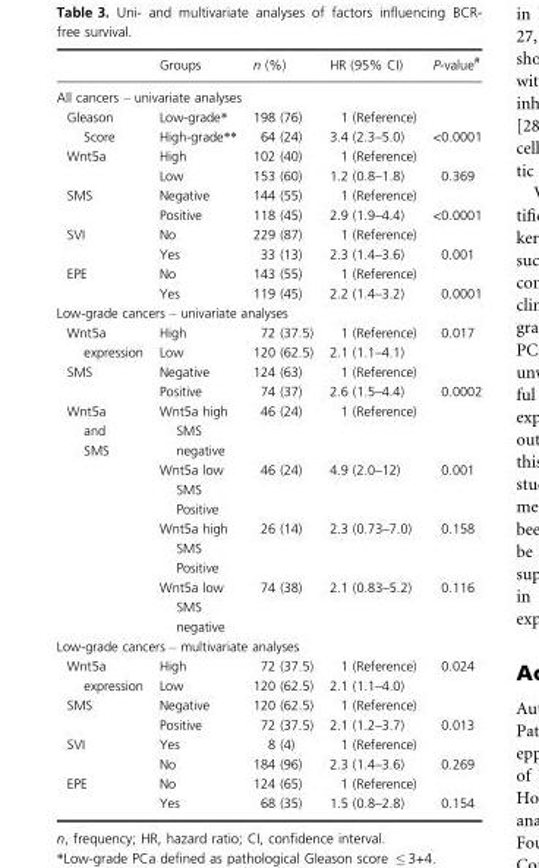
<table><thead><tr><td></td><td>Groups</td><td>n (%)</td><td>HR (95% CI)</td><td>P-value#</td></tr></thead><tbody><tr><td colspan="5">All cancers – univariate analyses</td></tr><tr><td rowspan="2">Gleason Score</td><td>Low-grade*</td><td>198 (76)</td><td>1 (Reference)</td><td></td></tr><tr><td>High-grade**</td><td>64 (24)</td><td>3.4 (2.3–5.0)</td><td>&lt;0.0001</td></tr><tr><td rowspan="2">Wnt5a</td><td>High</td><td>102 (40)</td><td>1 (Reference)</td><td></td></tr><tr><td>Low</td><td>153 (60)</td><td>1.2 (0.8–1.8)</td><td>0.369</td></tr><tr><td rowspan="2">SMS</td><td>Negative</td><td>144 (55)</td><td>1 (Reference)</td><td></td></tr><tr><td>Positive</td><td>118 (45)</td><td>2.9 (1.9–4.4)</td><td>&lt;0.0001</td></tr><tr><td rowspan="2">SVI</td><td>No</td><td>229 (87)</td><td>1 (Reference)</td><td></td></tr><tr><td>Yes</td><td>33 (13)</td><td>2.3 (1.4–3.6)</td><td>0.001</td></tr><tr><td rowspan="2">EPE</td><td>No</td><td>143 (55)</td><td>1 (Reference)</td><td></td></tr><tr><td>Yes</td><td>119 (45)</td><td>2.2 (1.4–3.2)</td><td>0.0001</td></tr><tr><td colspan="5">Low-grade cancers – univariate analyses</td></tr><tr><td rowspan="2">Wnt5a expression</td><td>High</td><td>72 (37.5)</td><td>1 (Reference)</td><td>0.017</td></tr><tr><td>Low</td><td>120 (62.5)</td><td>2.1 (1.1–4.1)</td><td></td></tr><tr><td rowspan="2">SMS</td><td>Negative</td><td>124 (63)</td><td>1 (Reference)</td><td></td></tr><tr><td>Positive</td><td>74 (37)</td><td>2.6 (1.5–4.4)</td><td>0.0002</td></tr><tr><td rowspan="4">Wnt5a and SMS</td><td>Wnt5a high SMS negative</td><td>46 (24)</td><td>1 (Reference)</td><td></td></tr><tr><td>Wnt5a low SMS Positive</td><td>46 (24)</td><td>4.9 (2.0–12)</td><td>0.001</td></tr><tr><td>Wnt5a high SMS Positive</td><td>26 (14)</td><td>2.3 (0.73–7.0)</td><td>0.158</td></tr><tr><td>Wnt5a low SMS negative</td><td>74 (38)</td><td>2.1 (0.83–5.2)</td><td>0.116</td></tr><tr><td colspan="5">Low-grade cancers – multivariate analyses</td></tr><tr><td rowspan="2">Wnt5a expression</td><td>High</td><td>72 (37.5)</td><td>1 (Reference)</td><td>0.024</td></tr><tr><td>Low</td><td>120 (62.5)</td><td>2.1 (1.1–4.0)</td><td></td></tr><tr><td rowspan="2">SMS</td><td>Negative</td><td>120 (62.5)</td><td>1 (Reference)</td><td></td></tr><tr><td>Positive</td><td>72 (37.5)</td><td>2.1 (1.2–3.7)</td><td>0.013</td></tr><tr><td rowspan="2">SVI</td><td>Yes</td><td>8 (4)</td><td>1 (Reference)</td><td></td></tr><tr><td>No</td><td>184 (96)</td><td>2.3 (1.4–3.6)</td><td>0.269</td></tr><tr><td rowspan="2">EPE</td><td>No</td><td>124 (65)</td><td>1 (Reference)</td><td></td></tr><tr><td>Yes</td><td>68 (35)</td><td>1.5 (0.8–2.8)</td><td>0.154</td></tr></tbody></table>